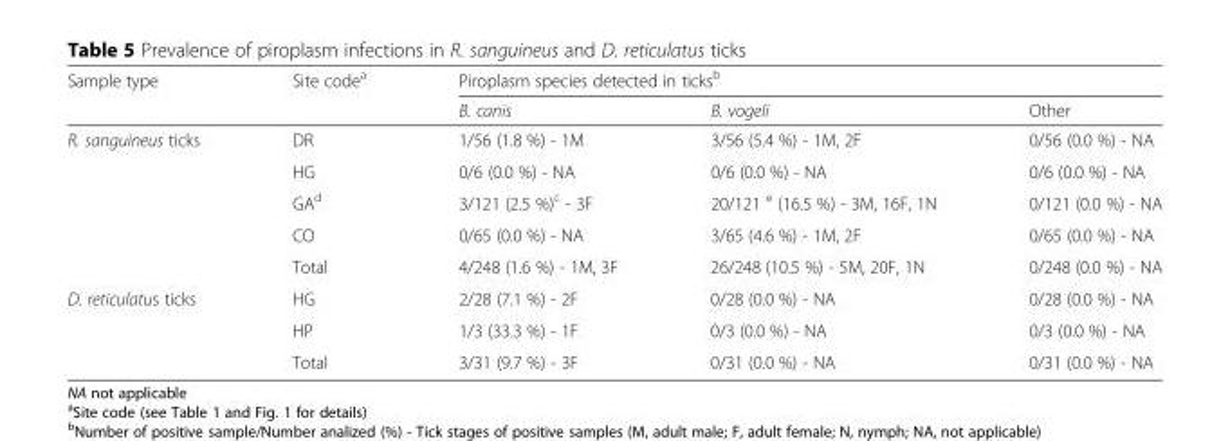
<table><thead><tr><td rowspan="2">Sample type</td><td rowspan="2">Site code<sup>a</sup></td><td colspan="3">Piroplasm species detected in ticks<sup>b</sup></td></tr><tr><td>B. canis</td><td>B. vogeli</td><td>Other</td></tr></thead><tbody><tr><td rowspan="5">R. sanguineus ticks</td><td>DR</td><td>1/56 (1.8 %) - 1M</td><td>3/56 (5.4 %) - 1M, 2F</td><td>0/56 (0.0 %) - NA</td></tr><tr><td>HG</td><td>0/6 (0.0 %) - NA</td><td>0/6 (0.0 %) - NA</td><td>0/6 (0.0 %) - NA</td></tr><tr><td>GA<sup>d</sup></td><td>3/121 (2.5 %)<sup>c</sup> - 3F</td><td>20/121 <sup>e</sup> (16.5 %) - 3M, 16F, 1N</td><td>0/121 (0.0 %) - NA</td></tr><tr><td>CO</td><td>0/65 (0.0 %) - NA</td><td>3/65 (4.6 %) - 1M, 2F</td><td>0/65 (0.0 %) - NA</td></tr><tr><td>Total</td><td>4/248 (1.6 %) - 1M, 3F</td><td>26/248 (10.5 %) - 5M, 20F, 1N</td><td>0/248 (0.0 %) - NA</td></tr><tr><td rowspan="3">D. reticulatus ticks</td><td>HG</td><td>2/28 (7.1 %) - 2F</td><td>0/28 (0.0 %) - NA</td><td>0/28 (0.0 %) - NA</td></tr><tr><td>HP</td><td>1/3 (33.3 %) - 1F</td><td>0/3 (0.0 %) - NA</td><td>0/3 (0.0 %) - NA</td></tr><tr><td>Total</td><td>3/31 (9.7 %) - 3F</td><td>0/31 (0.0 %) - NA</td><td>0/31 (0.0 %) - NA</td></tr></tbody></table>